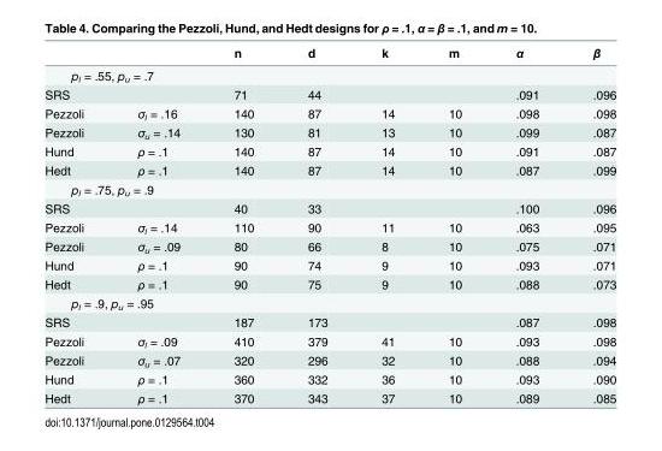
<table><thead><tr><td></td><td></td><td>n</td><td>d</td><td>k</td><td>m</td><td>α</td><td>β</td></tr></thead><tbody><tr><td colspan="8">p<sub>l</sub> = .55, p<sub>u</sub> = .7</td></tr><tr><td>SRS</td><td></td><td>71</td><td>44</td><td></td><td></td><td>.091</td><td>.096</td></tr><tr><td>Pezzoli</td><td>σ<sub>l</sub> = .16</td><td>140</td><td>87</td><td>14</td><td>10</td><td>.098</td><td>.098</td></tr><tr><td>Pezzoli</td><td>σ<sub>u</sub> = .14</td><td>130</td><td>81</td><td>13</td><td>10</td><td>.099</td><td>.087</td></tr><tr><td>Hund</td><td>ρ = .1</td><td>140</td><td>87</td><td>14</td><td>10</td><td>.091</td><td>.087</td></tr><tr><td>Hedt</td><td>ρ = .1</td><td>140</td><td>87</td><td>14</td><td>10</td><td>.087</td><td>.099</td></tr><tr><td colspan="8">p<sub>l</sub> = .75, p<sub>u</sub> = .9</td></tr><tr><td>SRS</td><td></td><td>40</td><td>33</td><td></td><td></td><td>.100</td><td>.096</td></tr><tr><td>Pezzoli</td><td>σ<sub>l</sub> = .14</td><td>110</td><td>90</td><td>11</td><td>10</td><td>.063</td><td>.095</td></tr><tr><td>Pezzoli</td><td>σ<sub>u</sub> = .09</td><td>80</td><td>66</td><td>8</td><td>10</td><td>.075</td><td>.071</td></tr><tr><td>Hund</td><td>ρ = .1</td><td>90</td><td>74</td><td>9</td><td>10</td><td>.093</td><td>.071</td></tr><tr><td>Hedt</td><td>ρ = .1</td><td>90</td><td>75</td><td>9</td><td>10</td><td>.088</td><td>.073</td></tr><tr><td colspan="8">p<sub>l</sub> = .9, p<sub>u</sub> = .95</td></tr><tr><td>SRS</td><td></td><td>187</td><td>173</td><td></td><td></td><td>.087</td><td>.098</td></tr><tr><td>Pezzoli</td><td>σ<sub>l</sub> = .09</td><td>410</td><td>379</td><td>41</td><td>10</td><td>.093</td><td>.098</td></tr><tr><td>Pezzoli</td><td>σ<sub>u</sub> = .07</td><td>320</td><td>296</td><td>32</td><td>10</td><td>.088</td><td>.094</td></tr><tr><td>Hund</td><td>ρ = .1</td><td>360</td><td>332</td><td>36</td><td>10</td><td>.093</td><td>.090</td></tr><tr><td>Hedt</td><td>ρ = .1</td><td>370</td><td>343</td><td>37</td><td>10</td><td>.089</td><td>.085</td></tr></tbody></table>